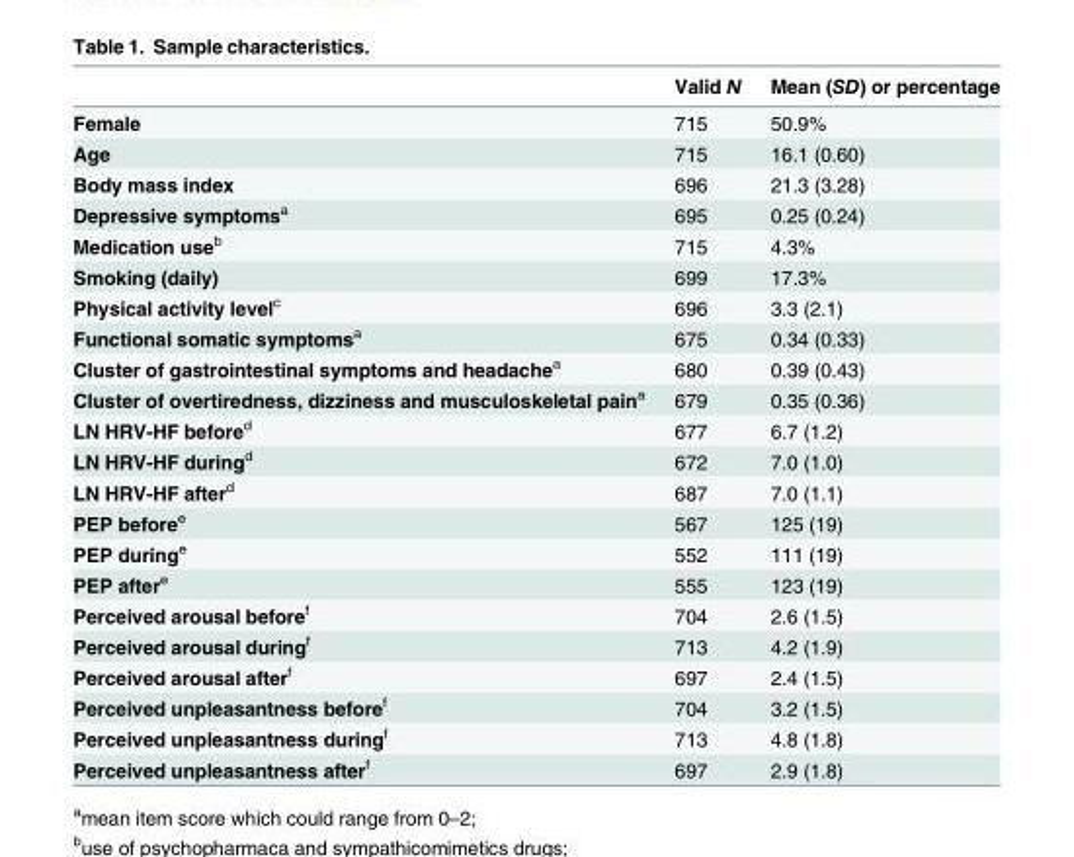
<table><thead><tr><td></td><td>Valid N</td><td>Mean (SD) or percentage</td></tr></thead><tbody><tr><td>Female</td><td>715</td><td>50.9%</td></tr><tr><td>Age</td><td>715</td><td>16.1 (0.60)</td></tr><tr><td>Body mass index</td><td>696</td><td>21.3 (3.28)</td></tr><tr><td>Depressive symptoms<sup>a</sup></td><td>695</td><td>0.25 (0.24)</td></tr><tr><td>Medication use<sup>b</sup></td><td>715</td><td>4.3%</td></tr><tr><td>Smoking (daily)</td><td>699</td><td>17.3%</td></tr><tr><td>Physical activity level<sup>c</sup></td><td>696</td><td>3.3 (2.1)</td></tr><tr><td>Functional somatic symptoms<sup>a</sup></td><td>675</td><td>0.34 (0.33)</td></tr><tr><td>Cluster of gastrointestinal symptoms and headache<sup>a</sup></td><td>680</td><td>0.39 (0.43)</td></tr><tr><td>Cluster of overtiredness, dizziness and musculoskeletal pain<sup>a</sup></td><td>679</td><td>0.35 (0.36)</td></tr><tr><td>LN HRV-HF before<sup>d</sup></td><td>677</td><td>6.7 (1.2)</td></tr><tr><td>LN HRV-HF during<sup>d</sup></td><td>672</td><td>7.0 (1.0)</td></tr><tr><td>LN HRV-HF after<sup>d</sup></td><td>687</td><td>7.0 (1.1)</td></tr><tr><td>PEP before<sup>e</sup></td><td>567</td><td>125 (19)</td></tr><tr><td>PEP during<sup>e</sup></td><td>552</td><td>111 (19)</td></tr><tr><td>PEP after<sup>e</sup></td><td>555</td><td>123 (19)</td></tr><tr><td>Perceived arousal before<sup>f</sup></td><td>704</td><td>2.6 (1.5)</td></tr><tr><td>Perceived arousal during<sup>f</sup></td><td>713</td><td>4.2 (1.9)</td></tr><tr><td>Perceived arousal after<sup>f</sup></td><td>697</td><td>2.4 (1.5)</td></tr><tr><td>Perceived unpleasantness before<sup>f</sup></td><td>704</td><td>3.2 (1.5)</td></tr><tr><td>Perceived unpleasantness during<sup>f</sup></td><td>713</td><td>4.8 (1.8)</td></tr><tr><td>Perceived unpleasantness after<sup>f</sup></td><td>697</td><td>2.9 (1.8)</td></tr></tbody></table>